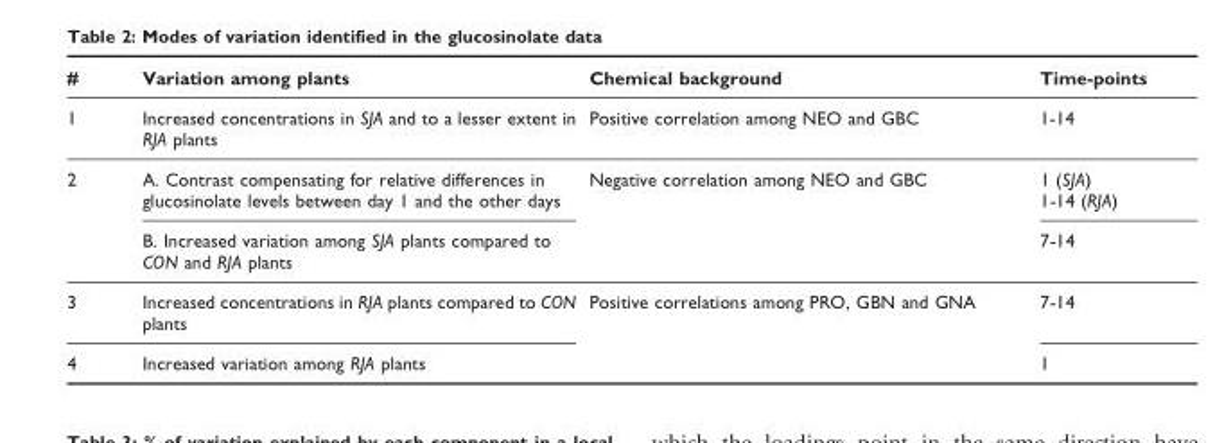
<table><thead><tr><td>#</td><td>Variation among plants</td><td>Chemical background</td><td>Time-points</td></tr></thead><tbody><tr><td>1</td><td>Increased concentrations in SJA and to a lesser extent in RJA plants</td><td>Positive correlation among NEO and GBC</td><td>1-14</td></tr><tr><td rowspan="2">2</td><td>A. Contrast compensating for relative differences in glucosinolate levels between day 1 and the other days</td><td>Negative correlation among NEO and GBC</td><td>1 (SJA) 1-14 (RJA)</td></tr><tr><td>B. Increased variation among SJA plants compared to CON and RJA plants</td><td></td><td>7-14</td></tr><tr><td>3</td><td>Increased concentrations in RJA plants compared to CON plants</td><td>Positive correlations among PRO, GBN and GNA</td><td>7-14</td></tr><tr><td>4</td><td>Increased variation among RJA plants</td><td></td><td>1</td></tr></tbody></table>